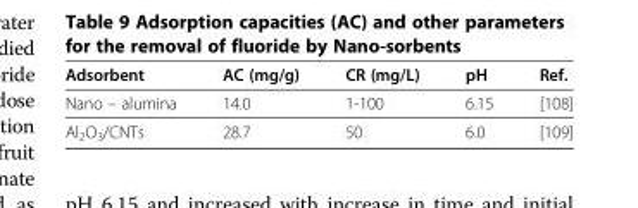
<table><thead><tr><td>Adsorbent</td><td>AC (mg/g)</td><td>CR (mg/L)</td><td>pH</td><td>Ref.</td></tr></thead><tbody><tr><td>Nano – alumina</td><td>14.0</td><td>1-100</td><td>6.15</td><td>[108]</td></tr><tr><td>Al<sub>2</sub>O<sub>3</sub>/CNTs</td><td>28.7</td><td>50</td><td>6.0</td><td>[109]</td></tr></tbody></table>